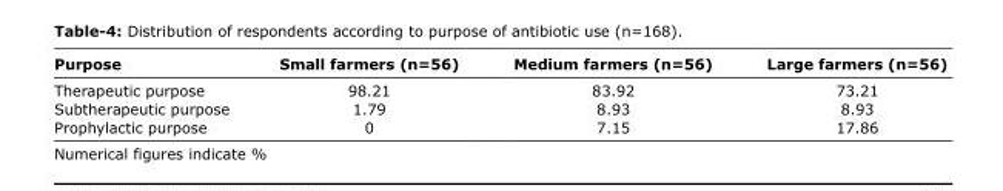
<table><thead><tr><td>Purpose</td><td>Small farmers (n=56)</td><td>Medium farmers (n=56)</td><td>Large farmers (n=56)</td></tr></thead><tbody><tr><td>Therapeutic purpose</td><td>98.21</td><td>83.92</td><td>73.21</td></tr><tr><td>Subtherapeutic purpose</td><td>1.79</td><td>8.93</td><td>8.93</td></tr><tr><td>Prophylactic purpose</td><td>0</td><td>7.15</td><td>17.86</td></tr></tbody></table>